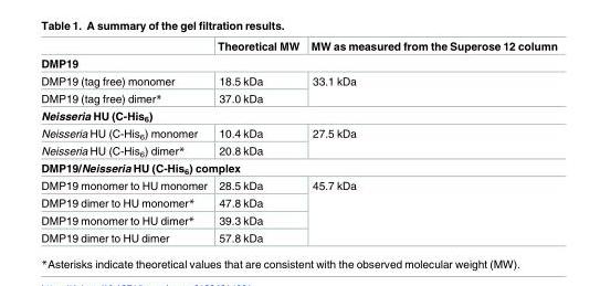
<table><thead><tr><td></td><td>Theoretical MW</td><td>MW as measured from the Superose 12 column</td></tr></thead><tbody><tr><td colspan="3">DMP19</td></tr><tr><td>DMP19 (tag free) monomer</td><td>18.5 kDa</td><td rowspan="2">33.1 kDa</td></tr><tr><td>DMP19 (tag free) dimer*</td><td>37.0 kDa</td></tr><tr><td colspan="3">Neisseria HU (C-His<sub>6</sub>)</td></tr><tr><td>Neisseria HU (C-His<sub>6</sub>) monomer</td><td>10.4 kDa</td><td rowspan="2">27.5 kDa</td></tr><tr><td>Neisseria HU (C-His<sub>6</sub>) dimer*</td><td>20.8 kDa</td></tr><tr><td colspan="3">DMP19/Neisseria HU (C-His<sub>6</sub>) complex</td></tr><tr><td>DMP19 monomer to HU monomer</td><td>28.5 kDa</td><td rowspan="4">45.7 kDa</td></tr><tr><td>DMP19 dimer to HU monomer*</td><td>47.8 kDa</td></tr><tr><td>DMP19 monomer to HU dimer*</td><td>39.3 kDa</td></tr><tr><td>DMP19 dimer to HU dimer</td><td>57.8 kDa</td></tr></tbody></table>